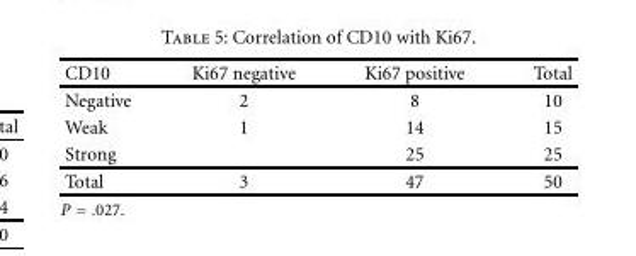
<table><thead><tr><td>CD10</td><td>Ki67 negative</td><td>Ki67 positive</td><td>Total</td></tr></thead><tbody><tr><td>Negative</td><td>2</td><td>8</td><td>10</td></tr><tr><td>Weak</td><td>1</td><td>14</td><td>15</td></tr><tr><td>Strong</td><td></td><td>25</td><td>25</td></tr><tr><td>Total</td><td>3</td><td>47</td><td>50</td></tr></tbody></table>